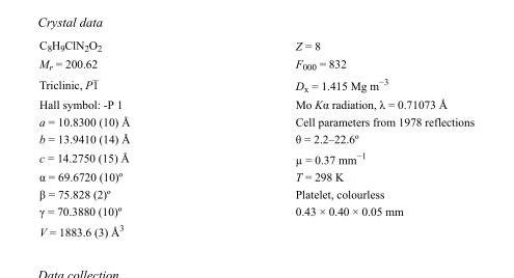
<table><tbody><tr><td>C<sub>8</sub>H<sub>9</sub>ClN<sub>2</sub>O<sub>2</sub></td><td>Z = 8</td></tr><tr><td>M<sub>r</sub> = 200.62</td><td>F000 = 832</td></tr><tr><td>Triclinic, P1</td><td>D<sub>x</sub> = 1.415 Mg m<sup>−3</sup></td></tr><tr><td>Hall symbol: -P 1</td><td>Mo Kα radiation, λ = 0.71073 Å</td></tr><tr><td>a = 10.8300 (10) Å</td><td>Cell parameters from 1978 reflections</td></tr><tr><td>b = 13.9410 (14) Å</td><td>θ = 2.2–22.6º</td></tr><tr><td>c = 14.2750 (15) Å</td><td>µ = 0.37 mm<sup>−1</sup></td></tr><tr><td>α = 69.6720 (10)º</td><td>T = 298 K</td></tr><tr><td>β = 75.828 (2)º</td><td>Platelet, colourless</td></tr><tr><td>γ = 70.3880 (10)º</td><td>0.43 × 0.40 × 0.05 mm</td></tr><tr><td>V = 1883.6 (3) Å<sup>3</sup></td><td></td></tr></tbody></table>